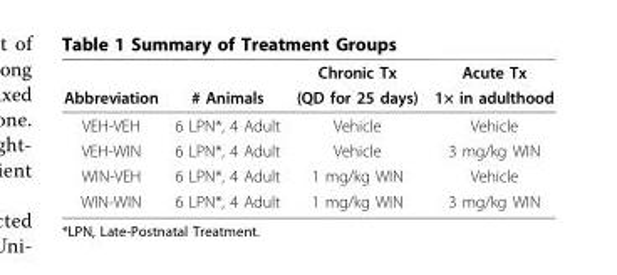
<table><thead><tr><td rowspan="2">Abbreviation</td><td rowspan="2"># Animals</td><td rowspan="2">Chronic Tx (QD for 25 days)</td><td rowspan="2">Acute Tx 1× in adulthood</td></tr><tr></tr></thead><tbody><tr><td>VEH-VEH</td><td>6 LPN*, 4 Adult</td><td>Vehicle</td><td>Vehicle</td></tr><tr><td>VEH-WIN</td><td>6 LPN*, 4 Adult</td><td>Vehicle</td><td>3 mg/kg WIN</td></tr><tr><td>WIN-VEH</td><td>6 LPN*, 4 Adult</td><td>1 mg/kg WIN</td><td>Vehicle</td></tr><tr><td>WIN-WIN</td><td>6 LPN*, 4 Adult</td><td>1 mg/kg WIN</td><td>3 mg/kg WIN</td></tr></tbody></table>